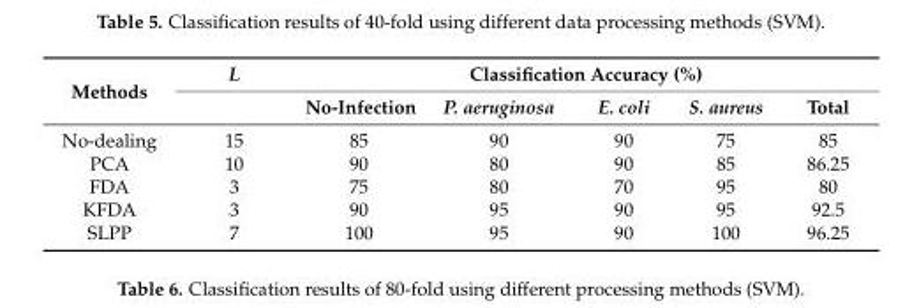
<table><thead><tr><td rowspan="2">Methods</td><td rowspan="2">L</td><td colspan="5">Classification Accuracy (%)</td></tr><tr><td>No-Infection</td><td>P. aeruginosa</td><td>E. coli</td><td>S. aureus</td><td>Total</td></tr></thead><tbody><tr><td>No-dealing</td><td>15</td><td>85</td><td>90</td><td>90</td><td>75</td><td>85</td></tr><tr><td>PCA</td><td>10</td><td>90</td><td>80</td><td>90</td><td>85</td><td>86.25</td></tr><tr><td>FDA</td><td>3</td><td>75</td><td>80</td><td>70</td><td>95</td><td>80</td></tr><tr><td>KFDA</td><td>3</td><td>90</td><td>95</td><td>90</td><td>95</td><td>92.5</td></tr><tr><td>SLPP</td><td>7</td><td>100</td><td>95</td><td>90</td><td>100</td><td>96.25</td></tr></tbody></table>